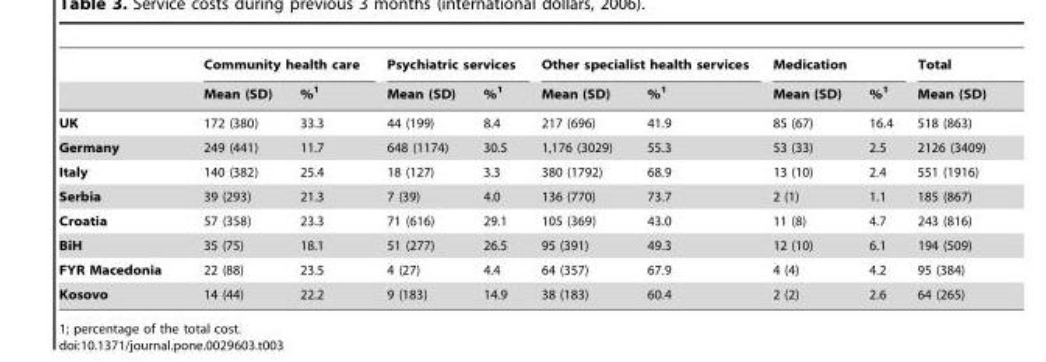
<table><thead><tr><td rowspan="2"></td><td colspan="2">Community health care</td><td colspan="2">Psychiatric services</td><td colspan="2">Other specialist health services</td><td colspan="2">Medication</td><td rowspan="2">Total Mean (SD)</td></tr><tr><td>Mean (SD)</td><td>%<sup>1</sup></td><td>Mean (SD)</td><td>%<sup>1</sup></td><td>Mean (SD)</td><td>%<sup>1</sup></td><td>Mean (SD)</td><td>%<sup>1</sup></td></tr></thead><tbody><tr><td>UK</td><td>172 (380)</td><td>33.3</td><td>44 (199)</td><td>8.4</td><td>217 (696)</td><td>41.9</td><td>85 (67)</td><td>16.4</td><td>518 (863)</td></tr><tr><td>Germany</td><td>249 (441)</td><td>11.7</td><td>648 (1174)</td><td>30.5</td><td>1,176 (3029)</td><td>55.3</td><td>53 (33)</td><td>2.5</td><td>2126 (3409)</td></tr><tr><td>Italy</td><td>140 (382)</td><td>25.4</td><td>18 (127)</td><td>3.3</td><td>380 (1792)</td><td>68.9</td><td>13 (10)</td><td>2.4</td><td>551 (1916)</td></tr><tr><td>Serbia</td><td>39 (293)</td><td>21.3</td><td>7 (39)</td><td>4.0</td><td>136 (770)</td><td>73.7</td><td>2 (1)</td><td>1.1</td><td>185 (867)</td></tr><tr><td>Croatia</td><td>57 (358)</td><td>23.3</td><td>71 (616)</td><td>29.1</td><td>105 (369)</td><td>43.0</td><td>11 (8)</td><td>4.7</td><td>243 (816)</td></tr><tr><td>BiH</td><td>35 (75)</td><td>18.1</td><td>51 (277)</td><td>26.5</td><td>95 (391)</td><td>49.3</td><td>12 (10)</td><td>6.1</td><td>194 (509)</td></tr><tr><td>FYR Macedonia</td><td>22 (88)</td><td>23.5</td><td>4 (27)</td><td>4.4</td><td>64 (357)</td><td>67.9</td><td>4 (4)</td><td>4.2</td><td>95 (384)</td></tr><tr><td>Kosovo</td><td>14 (44)</td><td>22.2</td><td>9 (183)</td><td>14.9</td><td>38 (183)</td><td>60.4</td><td>2 (2)</td><td>2.6</td><td>64 (265)</td></tr></tbody></table>